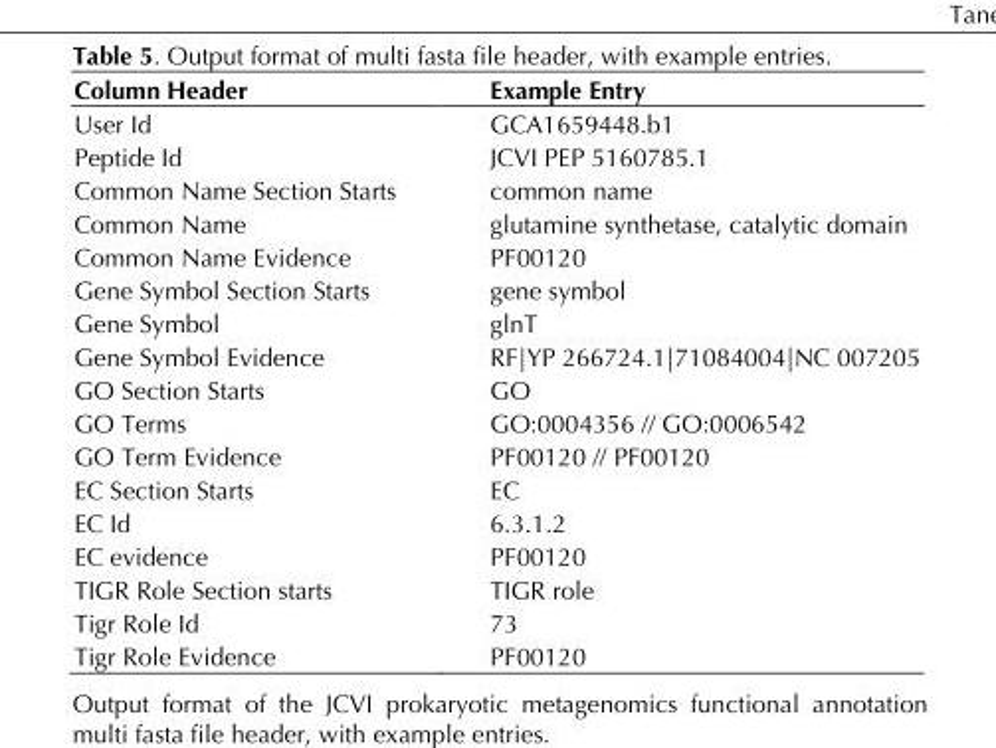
<table><thead><tr><td>Column Header</td><td>Example Entry</td></tr></thead><tbody><tr><td>User Id</td><td>GCA1659448.b1</td></tr><tr><td>Peptide Id</td><td>JCVI PEP 5160785.1</td></tr><tr><td>Common Name Section Starts</td><td>common name</td></tr><tr><td>Common Name</td><td>glutamine synthetase, catalytic domain</td></tr><tr><td>Common Name Evidence</td><td>PF00120</td></tr><tr><td>Gene Symbol Section Starts</td><td>gene symbol</td></tr><tr><td>Gene Symbol</td><td>glnT</td></tr><tr><td>Gene Symbol Evidence</td><td>RF|YP 266724.1|71084004|NC 007205</td></tr><tr><td>GO Section Starts</td><td>GO</td></tr><tr><td>GO Terms</td><td>GO:0004356 // GO:0006542</td></tr><tr><td>GO Term Evidence</td><td>PF00120 // PF00120</td></tr><tr><td>EC Section Starts</td><td>EC</td></tr><tr><td>EC Id</td><td>6.3.1.2</td></tr><tr><td>EC evidence</td><td>PF00120</td></tr><tr><td>TIGR Role Section starts</td><td>TIGR role</td></tr><tr><td>Tigr Role Id</td><td>73</td></tr><tr><td>Tigr Role Evidence</td><td>PF00120</td></tr></tbody></table>